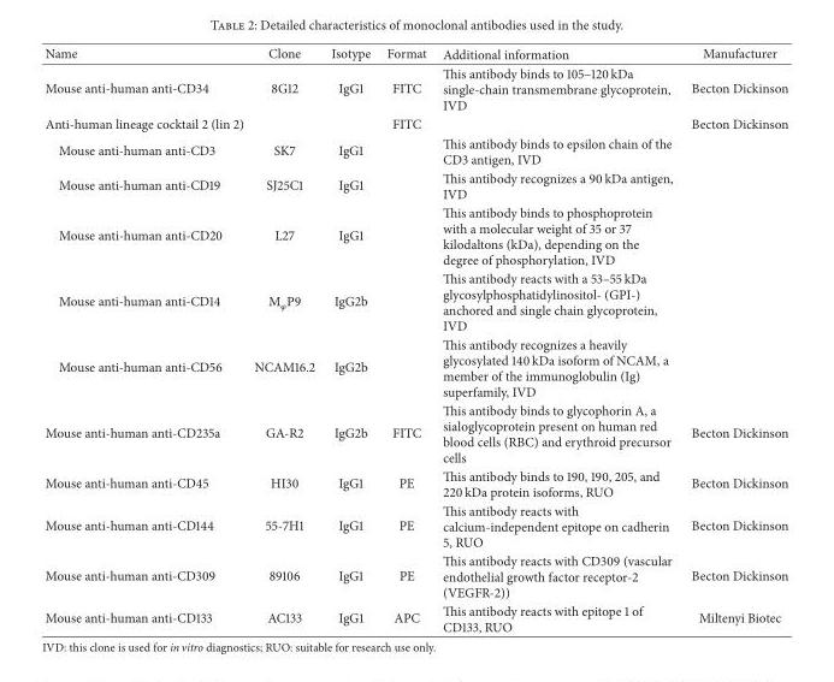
<table><thead><tr><td>Name</td><td>Clone</td><td>Isotype</td><td>Format</td><td>Additional information</td><td>Manufacturer</td></tr></thead><tbody><tr><td>Mouse anti-human anti-CD34</td><td>8G12</td><td>IgG1</td><td>FITC</td><td>This antibody binds to 105–120 kDa single-chain transmembrane glycoprotein, IVD</td><td>Becton Dickinson</td></tr><tr><td>Anti-human lineage cocktail 2 (lin 2)</td><td></td><td></td><td>FITC</td><td></td><td>Becton Dickinson</td></tr><tr><td>Mouse anti-human anti-CD3</td><td>SK7</td><td>IgG1</td><td></td><td>This antibody binds to epsilon chain of the CD3 antigen, IVD</td><td></td></tr><tr><td>Mouse anti-human anti-CD19</td><td>SJ25C1</td><td>IgG1</td><td></td><td>This antibody recognizes a 90 kDa antigen, IVD</td><td></td></tr><tr><td>Mouse anti-human anti-CD20</td><td>L27</td><td>IgG1</td><td></td><td>This antibody binds to phosphoprotein with a molecular weight of 35 or 37 kilodaltons (kDa), depending on the degree of phosphorylation, IVD</td><td></td></tr><tr><td>Mouse anti-human anti-CD14</td><td>M<sub>𝜑</sub>P9</td><td>IgG2b</td><td></td><td>This antibody reacts with a 53–55 kDa glycosylphosphatidylinositol- (GPI-) anchored and single chain glycoprotein, IVD</td><td></td></tr><tr><td>Mouse anti-human anti-CD56</td><td>NCAM16.2</td><td>IgG2b</td><td></td><td>This antibody recognizes a heavily glycosylated 140 kDa isoform of NCAM, a member of the immunoglobulin (Ig) superfamily, IVD</td><td></td></tr><tr><td>Mouse anti-human anti-CD235a</td><td>GA-R2</td><td>IgG2b</td><td>FITC</td><td>This antibody binds to glycophorin A, a sialoglycoprotein present on human red blood cells (RBC) and erythroid precursor cells</td><td>Becton Dickinson</td></tr><tr><td>Mouse anti-human anti-CD45</td><td>HI30</td><td>IgG1</td><td>PE</td><td>This antibody binds to 190, 190, 205, and 220 kDa protein isoforms, RUO</td><td>Becton Dickinson</td></tr><tr><td>Mouse anti-human anti-CD144</td><td>55-7H1</td><td>IgG1</td><td>PE</td><td>This antibody reacts with calcium-independent epitope on cadherin 5, RUO</td><td>Becton Dickinson</td></tr><tr><td>Mouse anti-human anti-CD309</td><td>89106</td><td>IgG1</td><td>PE</td><td>This antibody reacts with CD309 (vascular endothelial growth factor receptor-2 (VEGFR-2))</td><td>Becton Dickinson</td></tr><tr><td>Mouse anti-human anti-CD133</td><td>AC133</td><td>IgG1</td><td>APC</td><td>This antibody reacts with epitope 1 of CD133, RUO</td><td>Miltenyi Biotec</td></tr></tbody></table>